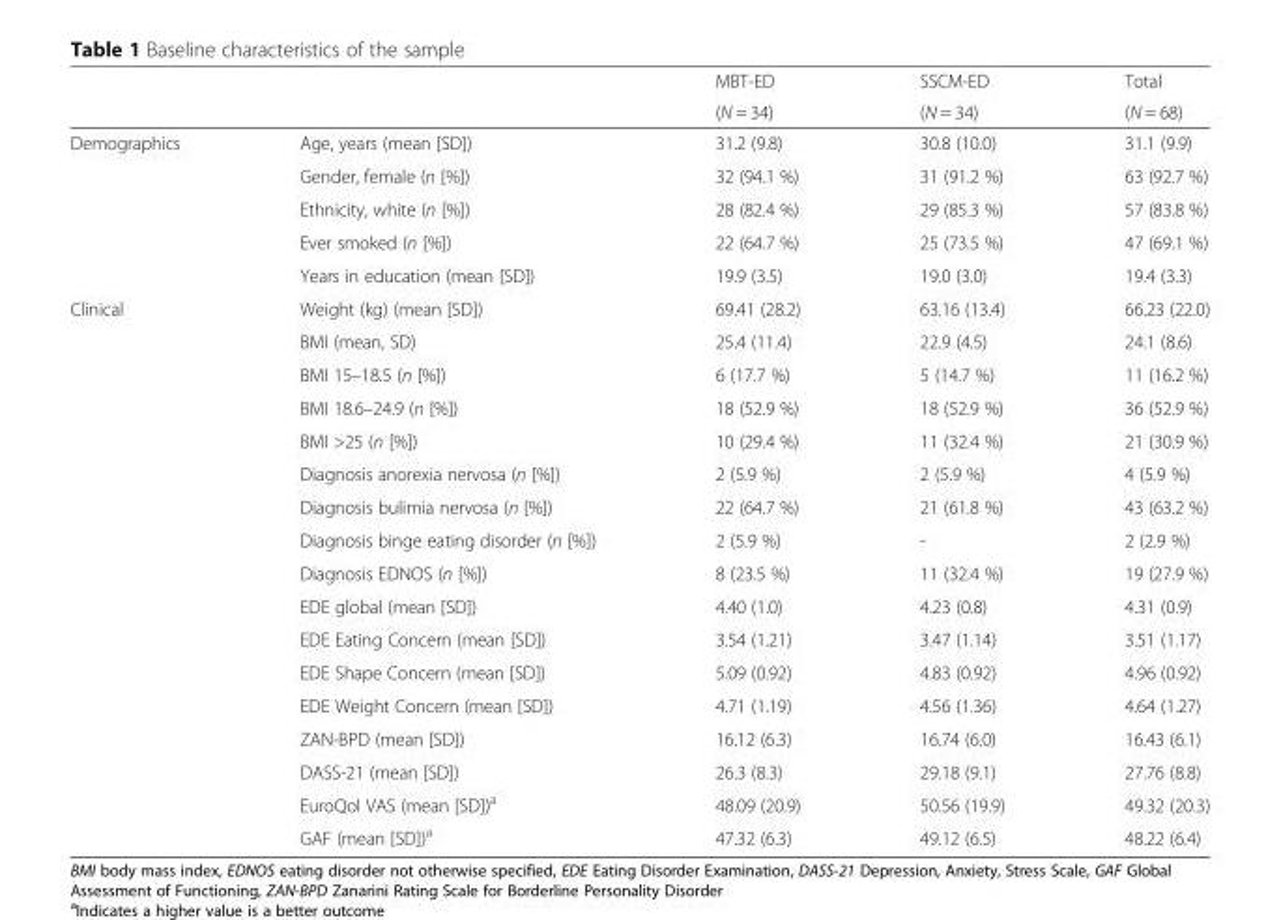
<table><thead><tr><td rowspan="2"></td><td rowspan="2"></td><td rowspan="2">MBT-ED (N = 34)</td><td rowspan="2">SSCM-ED (N = 34)</td><td rowspan="2">Total (N = 68)</td></tr><tr></tr></thead><tbody><tr><td rowspan="5">Demographics</td><td>Age, years (mean [SD])</td><td>31.2 (9.8)</td><td>30.8 (10.0)</td><td>31.1 (9.9)</td></tr><tr><td>Gender, female (n [%])</td><td>32 (94.1 %)</td><td>31 (91.2 %)</td><td>63 (92.7 %)</td></tr><tr><td>Ethnicity, white (n [%])</td><td>28 (82.4 %)</td><td>29 (85.3 %)</td><td>57 (83.8 %)</td></tr><tr><td>Ever smoked (n [%])</td><td>22 (64.7 %)</td><td>25 (73.5 %)</td><td>47 (69.1 %)</td></tr><tr><td>Years in education (mean [SD])</td><td>19.9 (3.5)</td><td>19.0 (3.0)</td><td>19.4 (3.3)</td></tr><tr><td rowspan="17">Clinical</td><td>Weight (kg) (mean [SD])</td><td>69.41 (28.2)</td><td>63.16 (13.4)</td><td>66.23 (22.0)</td></tr><tr><td>BMI (mean, SD)</td><td>25.4 (11.4)</td><td>22.9 (4.5)</td><td>24.1 (8.6)</td></tr><tr><td>BMI 15–18.5 (n [%])</td><td>6 (17.7 %)</td><td>5 (14.7 %)</td><td>11 (16.2 %)</td></tr><tr><td>BMI 18.6–24.9 (n [%])</td><td>18 (52.9 %)</td><td>18 (52.9 %)</td><td>36 (52.9 %)</td></tr><tr><td>BMI &gt;25 (n [%])</td><td>10 (29.4 %)</td><td>11 (32.4 %)</td><td>21 (30.9 %)</td></tr><tr><td>Diagnosis anorexia nervosa (n [%])</td><td>2 (5.9 %)</td><td>2 (5.9 %)</td><td>4 (5.9 %)</td></tr><tr><td>Diagnosis bulimia nervosa (n [%])</td><td>22 (64.7 %)</td><td>21 (61.8 %)</td><td>43 (63.2 %)</td></tr><tr><td>Diagnosis binge eating disorder (n [%])</td><td>2 (5.9 %)</td><td>-</td><td>2 (2.9 %)</td></tr><tr><td>Diagnosis EDNOS (n [%])</td><td>8 (23.5 %)</td><td>11 (32.4 %)</td><td>19 (27.9 %)</td></tr><tr><td>EDE global (mean [SD])</td><td>4.40 (1.0)</td><td>4.23 (0.8)</td><td>4.31 (0.9)</td></tr><tr><td>EDE Eating Concern (mean [SD])</td><td>3.54 (1.21)</td><td>3.47 (1.14)</td><td>3.51 (1.17)</td></tr><tr><td>EDE Shape Concern (mean [SD])</td><td>5.09 (0.92)</td><td>4.83 (0.92)</td><td>4.96 (0.92)</td></tr><tr><td>EDE Weight Concern (mean [SD])</td><td>4.71 (1.19)</td><td>4.56 (1.36)</td><td>4.64 (1.27)</td></tr><tr><td>ZAN-BPD (mean [SD])</td><td>16.12 (6.3)</td><td>16.74 (6.0)</td><td>16.43 (6.1)</td></tr><tr><td>DASS-21 (mean [SD])</td><td>26.3 (8.3)</td><td>29.18 (9.1)</td><td>27.76 (8.8)</td></tr><tr><td>EuroQol VAS (mean [SD])<sup>a</sup></td><td>48.09 (20.9)</td><td>50.56 (19.9)</td><td>49.32 (20.3)</td></tr><tr><td>GAF (mean [SD])<sup>a</sup></td><td>47.32 (6.3)</td><td>49.12 (6.5)</td><td>48.22 (6.4)</td></tr></tbody></table>